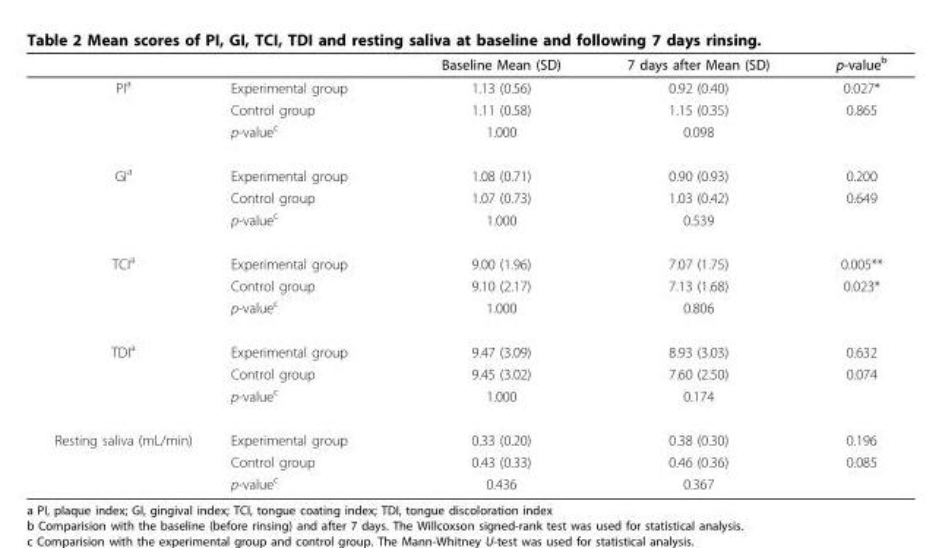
<table><thead><tr><td></td><td></td><td>Baseline Mean (SD)</td><td>7 days after Mean (SD)</td><td>p-value<sup>b</sup></td></tr></thead><tbody><tr><td rowspan="3">PI<sup>a</sup></td><td>Experimental group</td><td>1.13 (0.56)</td><td>0.92 (0.40)</td><td>0.027*</td></tr><tr><td>Control group</td><td>1.11 (0.58)</td><td>1.15 (0.35)</td><td>0.865</td></tr><tr><td>p-value<sup>c</sup></td><td>1.000</td><td>0.098</td><td></td></tr><tr><td rowspan="3">GI<sup>a</sup></td><td>Experimental group</td><td>1.08 (0.71)</td><td>0.90 (0.93)</td><td>0.200</td></tr><tr><td>Control group</td><td>1.07 (0.73)</td><td>1.03 (0.42)</td><td>0.649</td></tr><tr><td>p-value<sup>c</sup></td><td>1.000</td><td>0.539</td><td></td></tr><tr><td rowspan="3">TCI<sup>a</sup></td><td>Experimental group</td><td>9.00 (1.96)</td><td>7.07 (1.75)</td><td>0.005**</td></tr><tr><td>Control group</td><td>9.10 (2.17)</td><td>7.13 (1.68)</td><td>0.023*</td></tr><tr><td>p-value<sup>c</sup></td><td>1.000</td><td>0.806</td><td></td></tr><tr><td rowspan="3">TDI<sup>a</sup></td><td>Experimental group</td><td>9.47 (3.09)</td><td>8.93 (3.03)</td><td>0.632</td></tr><tr><td>Control group</td><td>9.45 (3.02)</td><td>7.60 (2.50)</td><td>0.074</td></tr><tr><td>p-value<sup>c</sup></td><td>1.000</td><td>0.174</td><td></td></tr><tr><td rowspan="3">Resting saliva (mL/min)</td><td>Experimental group</td><td>0.33 (0.20)</td><td>0.38 (0.30)</td><td>0.196</td></tr><tr><td>Control group</td><td>0.43 (0.33)</td><td>0.46 (0.36)</td><td>0.085</td></tr><tr><td>p-value<sup>c</sup></td><td>0.436</td><td>0.367</td><td></td></tr></tbody></table>